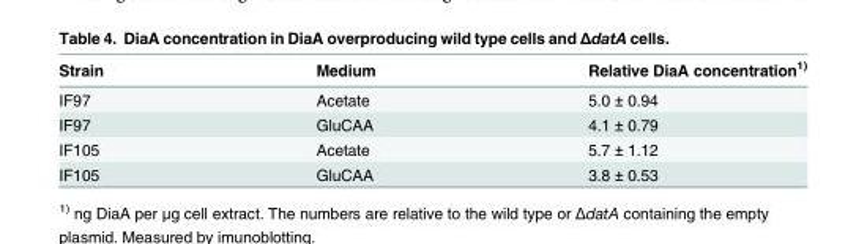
<table><thead><tr><td>Strain</td><td>Medium</td><td>Relative DiaA concentration<sup>1)</sup></td></tr></thead><tbody><tr><td>IF97</td><td>Acetate</td><td>5.0 ± 0.94</td></tr><tr><td>IF97</td><td>GluCAA</td><td>4.1 ± 0.79</td></tr><tr><td>IF105</td><td>Acetate</td><td>5.7 ± 1.12</td></tr><tr><td>IF105</td><td>GluCAA</td><td>3.8 ± 0.53</td></tr></tbody></table>